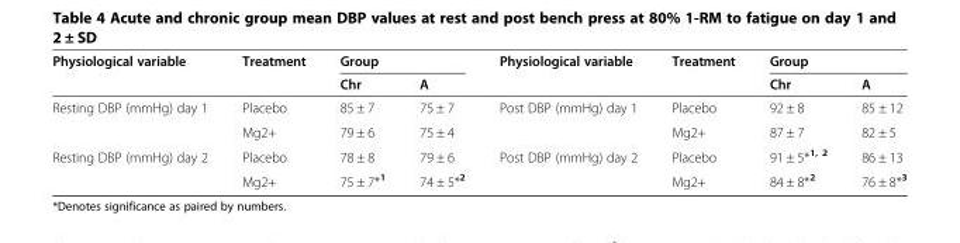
<table><thead><tr><td rowspan="2">Physiological variable</td><td rowspan="2">Treatment</td><td colspan="2">Group</td><td rowspan="2">Physiological variable</td><td rowspan="2">Treatment</td><td colspan="2">Group</td></tr><tr><td>Chr</td><td>A</td><td>Chr</td><td>A</td></tr></thead><tbody><tr><td rowspan="2">Resting DBP (mmHg) day 1</td><td>Placebo</td><td>85 ± 7</td><td>75 ± 7</td><td>Post DBP (mmHg) day 1</td><td>Placebo</td><td>92 ± 8</td><td>85 ± 12</td></tr><tr><td>Mg2+</td><td>79 ± 6</td><td>75 ± 4</td><td></td><td>Mg2+</td><td>87 ± 7</td><td>82 ± 5</td></tr><tr><td rowspan="2">Resting DBP (mmHg) day 2</td><td>Placebo</td><td>78 ± 8</td><td>79 ± 6</td><td>Post DBP (mmHg) day 2</td><td>Placebo</td><td>91 ± 5*<sup>1, 2</sup></td><td>86 ± 13</td></tr><tr><td>Mg2+</td><td>75 ± 7*<sup>1</sup></td><td>74 ± 5*<sup>2</sup></td><td></td><td>Mg2+</td><td>84 ± 8*<sup>2</sup></td><td>76 ± 8*<sup>3</sup></td></tr></tbody></table>